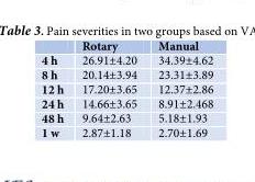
<table><thead><tr><td></td><td>Rotary</td><td>Manual</td></tr></thead><tbody><tr><td>4 h</td><td>26.91±4.20</td><td>34.39±4.62</td></tr><tr><td>8 h</td><td>20.14±3.94</td><td>23.31±3.89</td></tr><tr><td>12 h</td><td>17.20±3.65</td><td>12.37±2.86</td></tr><tr><td>24 h</td><td>14.66±3.65</td><td>8.91±2.468</td></tr><tr><td>48 h</td><td>9.64±2.63</td><td>5.18±1.93</td></tr><tr><td>1 w</td><td>2.87±1.18</td><td>2.70±1.69</td></tr></tbody></table>